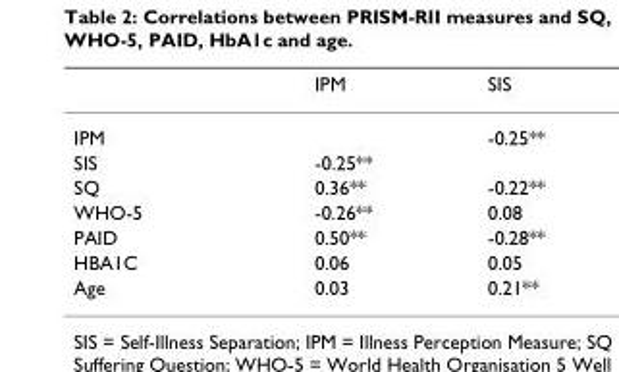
<table><thead><tr><td></td><td>IPM</td><td>SIS</td></tr></thead><tbody><tr><td>IPM</td><td></td><td>-0.25**</td></tr><tr><td>SIS</td><td>-0.25**</td><td></td></tr><tr><td>SQ</td><td>0.36**</td><td>-0.22**</td></tr><tr><td>WHO-5</td><td>-0.26**</td><td>0.08</td></tr><tr><td>PAID</td><td>0.50**</td><td>-0.28**</td></tr><tr><td>HBA1C</td><td>0.06</td><td>0.05</td></tr><tr><td>Age</td><td>0.03</td><td>0.21**</td></tr></tbody></table>